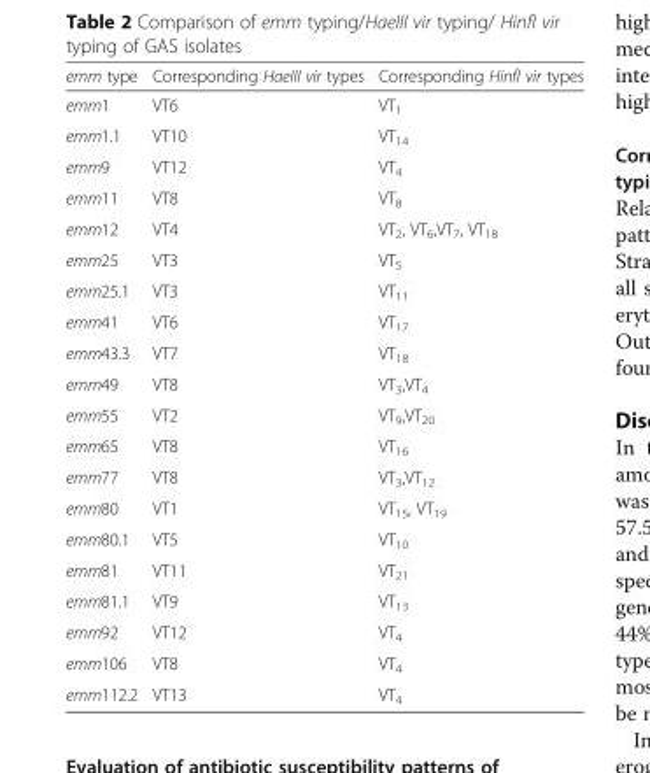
<table><thead><tr><td>emm type</td><td>Corresponding HaeIII vir types</td><td>Corresponding HinfI vir types</td></tr></thead><tbody><tr><td>emm1</td><td>VT6</td><td>VT<sub>1</sub></td></tr><tr><td>emm1.1</td><td>VT10</td><td>VT<sub>14</sub></td></tr><tr><td>emm9</td><td>VT12</td><td>VT<sub>4</sub></td></tr><tr><td>emm11</td><td>VT8</td><td>VT<sub>8</sub></td></tr><tr><td>emm12</td><td>VT4</td><td>VT<sub>2</sub>, VT<sub>6</sub>,VT<sub>7</sub>, VT<sub>18</sub></td></tr><tr><td>emm25</td><td>VT3</td><td>VT<sub>5</sub></td></tr><tr><td>emm25.1</td><td>VT3</td><td>VT<sub>11</sub></td></tr><tr><td>emm41</td><td>VT6</td><td>VT<sub>17</sub></td></tr><tr><td>emm43.3</td><td>VT7</td><td>VT<sub>18</sub></td></tr><tr><td>emm49</td><td>VT8</td><td>VT<sub>3</sub>,VT<sub>4</sub></td></tr><tr><td>emm55</td><td>VT2</td><td>VT<sub>9</sub>,VT<sub>20</sub></td></tr><tr><td>emm65</td><td>VT8</td><td>VT<sub>16</sub></td></tr><tr><td>emm77</td><td>VT8</td><td>VT<sub>3</sub>,VT<sub>12</sub></td></tr><tr><td>emm80</td><td>VT1</td><td>VT<sub>15</sub>, VT<sub>19</sub></td></tr><tr><td>emm80.1</td><td>VT5</td><td>VT<sub>10</sub></td></tr><tr><td>emm81</td><td>VT11</td><td>VT<sub>21</sub></td></tr><tr><td>emm81.1</td><td>VT9</td><td>VT<sub>13</sub></td></tr><tr><td>emm92</td><td>VT12</td><td>VT<sub>4</sub></td></tr><tr><td>emm106</td><td>VT8</td><td>VT<sub>4</sub></td></tr><tr><td>emm112.2</td><td>VT13</td><td>VT<sub>4</sub></td></tr></tbody></table>